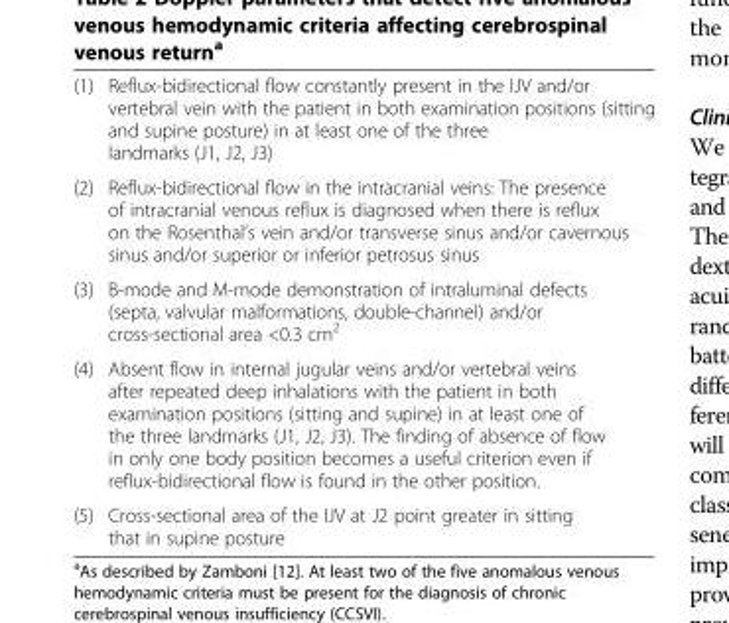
<table><tbody><tr><td>(1)</td><td>Reflux-bidirectional flow constantly present in the IJV and/or vertebral vein with the patient in both examination positions (sitting and supine posture) in at least one of the three landmarks (J1, J2, J3)</td></tr><tr><td>(2)</td><td>Reflux-bidirectional flow in the intracranial veins: The presence of intracranial venous reflux is diagnosed when there is reflux on the Rosenthal’s vein and/or transverse sinus and/or cavernous sinus and/or superior or inferior petrosus sinus</td></tr><tr><td>(3)</td><td>B-mode and M-mode demonstration of intraluminal defects (septa, valvular malformations, double-channel) and/or cross-sectional area &lt;0.3 cm<sup>2</sup></td></tr><tr><td>(4)</td><td>Absent flow in internal jugular veins and/or vertebral veins after repeated deep inhalations with the patient in both examination positions (sitting and supine) in at least one of the three landmarks (J1, J2, J3). The finding of absence of flow in only one body position becomes a useful criterion even if reflux-bidirectional flow is found in the other position.</td></tr><tr><td>(5)</td><td>Cross-sectional area of the IJV at J2 point greater in sitting that in supine posture</td></tr></tbody></table>